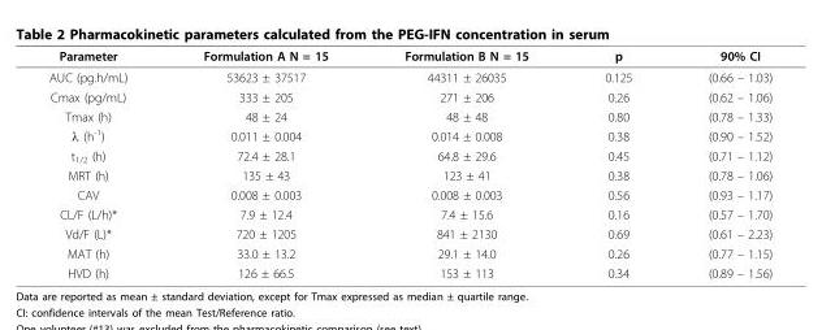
<table><thead><tr><td>Parameter</td><td>Formulation A N = 15</td><td>Formulation B N = 15</td><td>p</td><td>90% CI</td></tr></thead><tbody><tr><td>AUC (pg.h/mL)</td><td>53623 ± 37517</td><td>44311 ± 26035</td><td>0.125</td><td>(0.66 – 1.03)</td></tr><tr><td>Cmax (pg/mL)</td><td>333 ± 205</td><td>271 ± 206</td><td>0.26</td><td>(0.62 – 1.06)</td></tr><tr><td>Tmax (h)</td><td>48 ± 24</td><td>48 ± 48</td><td>0.80</td><td>(0.78 – 1.33)</td></tr><tr><td>λ (h<sup>-1</sup>)</td><td>0.011 ± 0.004</td><td>0.014 ± 0.008</td><td>0.38</td><td>(0.90 – 1.52)</td></tr><tr><td>t<sub>1/2</sub> (h)</td><td>72.4 ± 28.1</td><td>64.8 ± 29.6</td><td>0.45</td><td>(0.71 – 1.12)</td></tr><tr><td>MRT (h)</td><td>135 ± 43</td><td>123 ± 41</td><td>0.38</td><td>(0.78 – 1.06)</td></tr><tr><td>CAV</td><td>0.008 ± 0.003</td><td>0.008 ± 0.003</td><td>0.56</td><td>(0.93 – 1.17)</td></tr><tr><td>CL/F (L/h)*</td><td>7.9 ± 12.4</td><td>7.4 ± 15.6</td><td>0.16</td><td>(0.57 – 1.70)</td></tr><tr><td>Vd/F (L)*</td><td>720 ± 1205</td><td>841 ± 2130</td><td>0.69</td><td>(0.61 – 2.23)</td></tr><tr><td>MAT (h)</td><td>33.0 ± 13.2</td><td>29.1 ± 14.0</td><td>0.26</td><td>(0.77 – 1.15)</td></tr><tr><td>HVD (h)</td><td>126 ± 66.5</td><td>153 ± 113</td><td>0.34</td><td>(0.89 – 1.56)</td></tr></tbody></table>